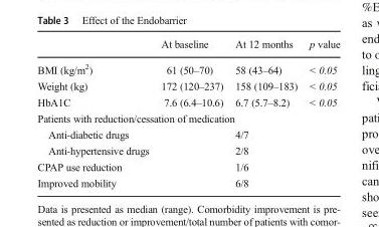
<table><thead><tr><td></td><td>At baseline</td><td>At 12 months</td><td>p value</td></tr></thead><tbody><tr><td>BMI (kg/m<sup>2</sup>)</td><td>61 (50–70)</td><td>58 (43–64)</td><td>&lt; 0.05</td></tr><tr><td>Weight (kg)</td><td>172 (120–237)</td><td>158 (109–183)</td><td>&lt; 0.05</td></tr><tr><td>HbA1C</td><td>7.6 (6.4–10.6)</td><td>6.7 (5.7–8.2)</td><td>&lt; 0.05</td></tr><tr><td colspan="4">Patients with reduction/cessation of medication</td></tr><tr><td>Anti-diabetic drugs</td><td></td><td>4/7</td><td></td></tr><tr><td>Anti-hypertensive drugs</td><td></td><td>2/8</td><td></td></tr><tr><td>CPAP use reduction</td><td></td><td>1/6</td><td></td></tr><tr><td>Improved mobility</td><td></td><td>6/8</td><td></td></tr></tbody></table>